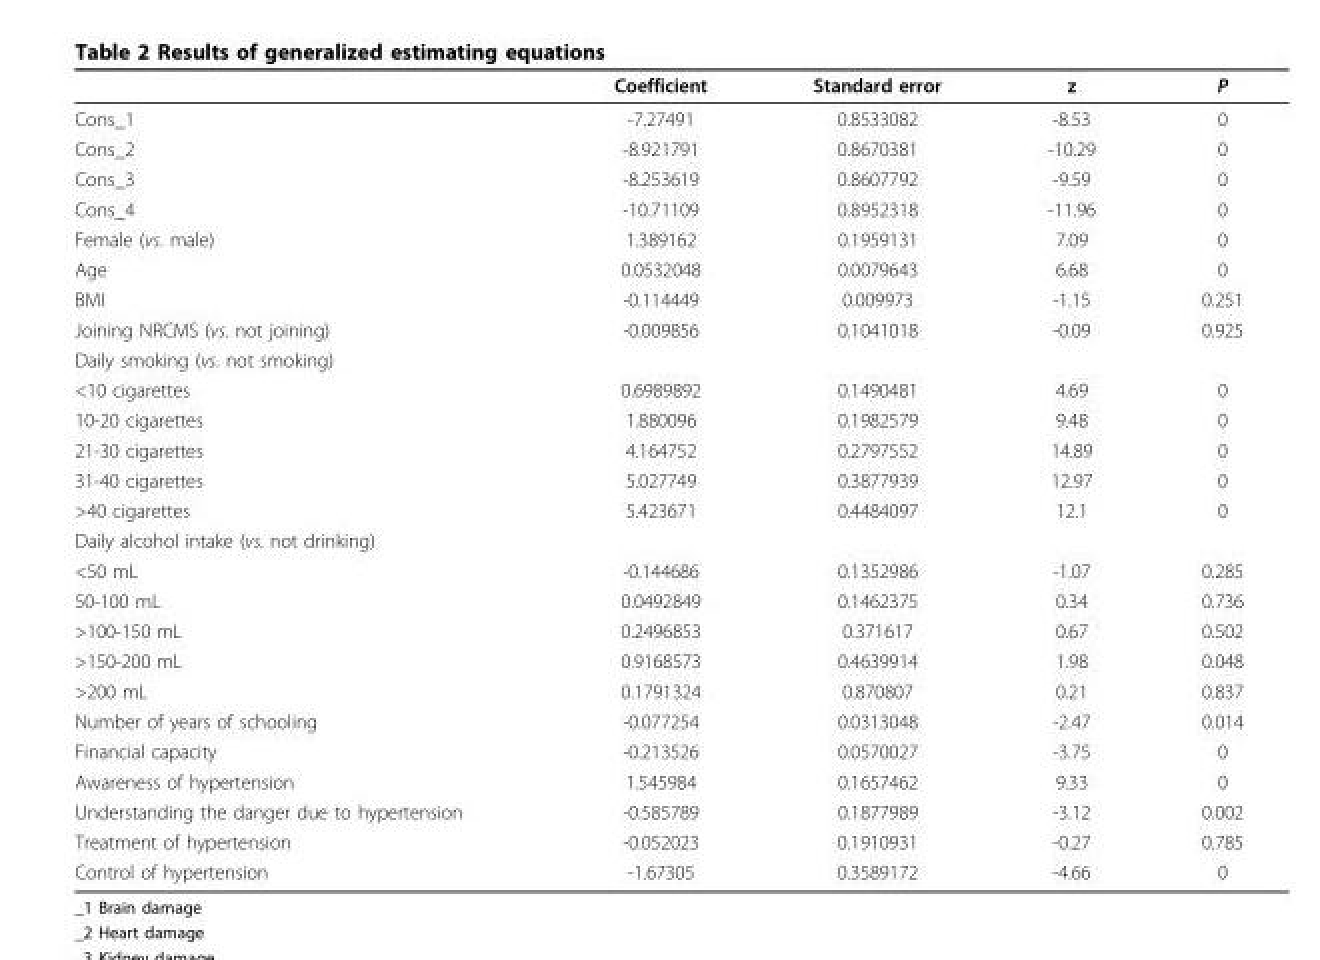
<table><thead><tr><td></td><td>Coefficient</td><td>Standard error</td><td>z</td><td>P</td></tr></thead><tbody><tr><td>Cons_1</td><td>-7.27491</td><td>0.8533082</td><td>-8.53</td><td>0</td></tr><tr><td>Cons_2</td><td>-8.921791</td><td>0.8670381</td><td>-10.29</td><td>0</td></tr><tr><td>Cons_3</td><td>-8.253619</td><td>0.8607792</td><td>-9.59</td><td>0</td></tr><tr><td>Cons_4</td><td>-10.71109</td><td>0.8952318</td><td>-11.96</td><td>0</td></tr><tr><td>Female (vs. male)</td><td>1.389162</td><td>0.1959131</td><td>7.09</td><td>0</td></tr><tr><td>Age</td><td>0.0532048</td><td>0.0079643</td><td>6.68</td><td>0</td></tr><tr><td>BMI</td><td>-0.114449</td><td>0.009973</td><td>-1.15</td><td>0.251</td></tr><tr><td>Joining NRCMS (vs. not joining)</td><td>-0.009856</td><td>0.1041018</td><td>-0.09</td><td>0.925</td></tr><tr><td colspan="5">Daily smoking (vs. not smoking)</td></tr><tr><td>&lt;10 cigarettes</td><td>0.6989892</td><td>0.1490481</td><td>4.69</td><td>0</td></tr><tr><td>10-20 cigarettes</td><td>1.880096</td><td>0.1982579</td><td>9.48</td><td>0</td></tr><tr><td>21-30 cigarettes</td><td>4.164752</td><td>0.2797552</td><td>14.89</td><td>0</td></tr><tr><td>31-40 cigarettes</td><td>5.027749</td><td>0.3877939</td><td>12.97</td><td>0</td></tr><tr><td>&gt;40 cigarettes</td><td>5.423671</td><td>0.4484097</td><td>12.1</td><td>0</td></tr><tr><td colspan="5">Daily alcohol intake (vs. not drinking)</td></tr><tr><td>&lt;50 mL</td><td>-0.144686</td><td>0.1352986</td><td>-1.07</td><td>0.285</td></tr><tr><td>50-100 mL</td><td>0.0492849</td><td>0.1462375</td><td>0.34</td><td>0.736</td></tr><tr><td>&gt;100-150 mL</td><td>0.2496853</td><td>0.371617</td><td>0.67</td><td>0.502</td></tr><tr><td>&gt;150-200 mL</td><td>0.9168573</td><td>0.4639914</td><td>1.98</td><td>0.048</td></tr><tr><td>&gt;200 mL</td><td>0.1791324</td><td>0.870807</td><td>0.21</td><td>0.837</td></tr><tr><td>Number of years of schooling</td><td>-0.077254</td><td>0.0313048</td><td>-2.47</td><td>0.014</td></tr><tr><td>Financial capacity</td><td>-0.213526</td><td>0.0570027</td><td>-3.75</td><td>0</td></tr><tr><td>Awareness of hypertension</td><td>1.545984</td><td>0.1657462</td><td>9.33</td><td>0</td></tr><tr><td>Understanding the danger due to hypertension</td><td>-0.585789</td><td>0.1877989</td><td>-3.12</td><td>0.002</td></tr><tr><td>Treatment of hypertension</td><td>-0.052023</td><td>0.1910931</td><td>-0.27</td><td>0.785</td></tr><tr><td>Control of hypertension</td><td>-1.67305</td><td>0.3589172</td><td>-4.66</td><td>0</td></tr></tbody></table>